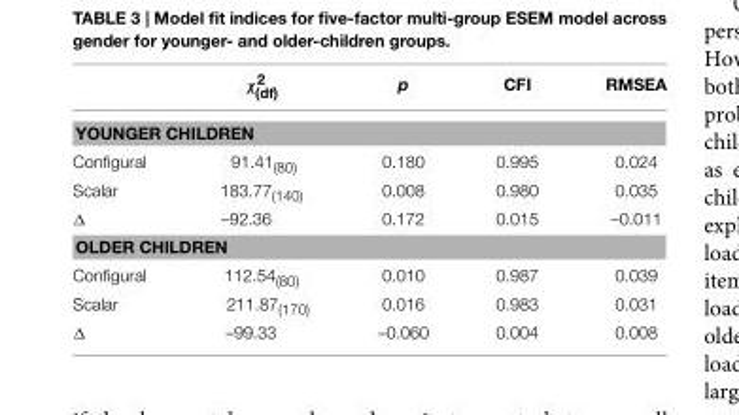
<table><thead><tr><td></td><td>χ<sup>2</sup> <sub>(df)</sub></td><td>p</td><td>CFI</td><td>RMSEA</td></tr></thead><tbody><tr><td colspan="5">YOUNGER CHILDREN</td></tr><tr><td>Configural</td><td>91.41<sub>(80)</sub></td><td>0.180</td><td>0.995</td><td>0.024</td></tr><tr><td>Scalar</td><td>183.77<sub>(140)</sub></td><td>0.008</td><td>0.980</td><td>0.035</td></tr><tr><td>Δ</td><td>–92.36</td><td>0.172</td><td>0.015</td><td>–0.011</td></tr><tr><td colspan="5">OLDER CHILDREN</td></tr><tr><td>Configural</td><td>112.54<sub>(80)</sub></td><td>0.010</td><td>0.987</td><td>0.039</td></tr><tr><td>Scalar</td><td>211.87<sub>(170)</sub></td><td>0.016</td><td>0.983</td><td>0.031</td></tr><tr><td>Δ</td><td>–99.33</td><td>–0.060</td><td>0.004</td><td>0.008</td></tr></tbody></table>